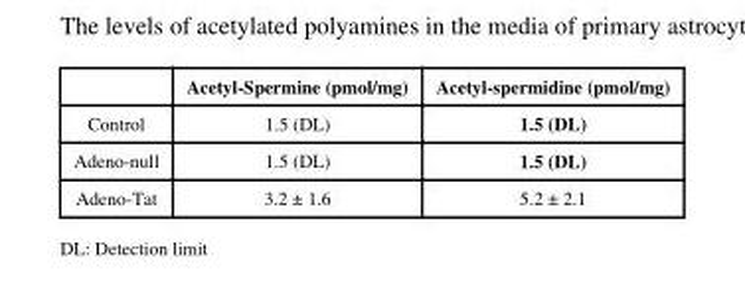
<table><thead><tr><td></td><td>Acetyl-Spermine (pmol/mg)</td><td>Acetyl-spermidine (pmol/mg)</td></tr></thead><tbody><tr><td>Control</td><td>1.5 (DL)</td><td>1.5 (DL)</td></tr><tr><td>Adeno-null</td><td>1.5 (DL)</td><td>1.5 (DL)</td></tr><tr><td>Adeno-Tat</td><td>3.2 ± 1.6</td><td>5.2 ± 2.1</td></tr></tbody></table>